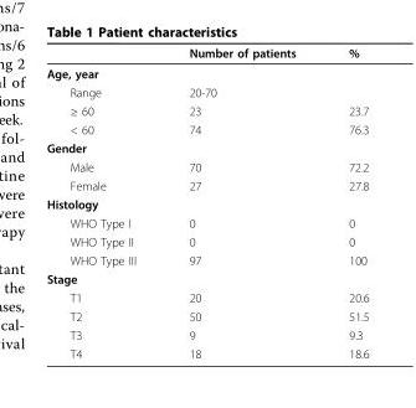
<table><thead><tr><td></td><td>Number of patients</td><td>%</td></tr></thead><tbody><tr><td colspan="3">Age, year</td></tr><tr><td>Range</td><td>20-70</td><td></td></tr><tr><td>≥ 60</td><td>23</td><td>23.7</td></tr><tr><td>&lt; 60</td><td>74</td><td>76.3</td></tr><tr><td colspan="3">Gender</td></tr><tr><td>Male</td><td>70</td><td>72.2</td></tr><tr><td>Female</td><td>27</td><td>27.8</td></tr><tr><td colspan="3">Histology</td></tr><tr><td>WHO Type I</td><td>0</td><td>0</td></tr><tr><td>WHO Type II</td><td>0</td><td>0</td></tr><tr><td>WHO Type III</td><td>97</td><td>100</td></tr><tr><td colspan="3">Stage</td></tr><tr><td>T1</td><td>20</td><td>20.6</td></tr><tr><td>T2</td><td>50</td><td>51.5</td></tr><tr><td>T3</td><td>9</td><td>9.3</td></tr><tr><td>T4</td><td>18</td><td>18.6</td></tr></tbody></table>